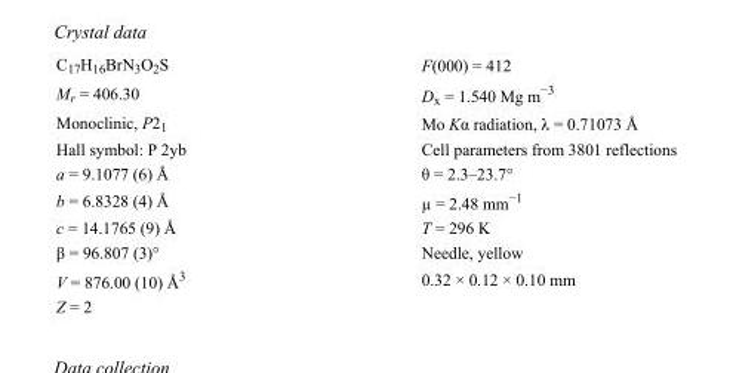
<table><tbody><tr><td>C<sub>17</sub>H<sub>16</sub>BrN<sub>3</sub>O<sub>2</sub>S</td><td>F(000) = 412</td></tr><tr><td>M<sub>r</sub> = 406.30</td><td>D<sub>x</sub> = 1.540 Mg m<sup>−3</sup></td></tr><tr><td>Monoclinic, P2<sub>1</sub></td><td>Mo Kα radiation, λ = 0.71073 Å</td></tr><tr><td>Hall symbol: P 2yb</td><td>Cell parameters from 3801 reflections</td></tr><tr><td>a = 9.1077 (6) Å</td><td>θ = 2.3–23.7°</td></tr><tr><td>b = 6.8328 (4) Å</td><td>µ = 2.48 mm<sup>−1</sup></td></tr><tr><td>c = 14.1765 (9) Å</td><td>T = 296 K</td></tr><tr><td>β = 96.807 (3)°</td><td>Needle, yellow</td></tr><tr><td>V = 876.00 (10) Å<sup>3</sup></td><td>0.32 × 0.12 × 0.10 mm</td></tr><tr><td>Z = 2</td><td></td></tr></tbody></table>